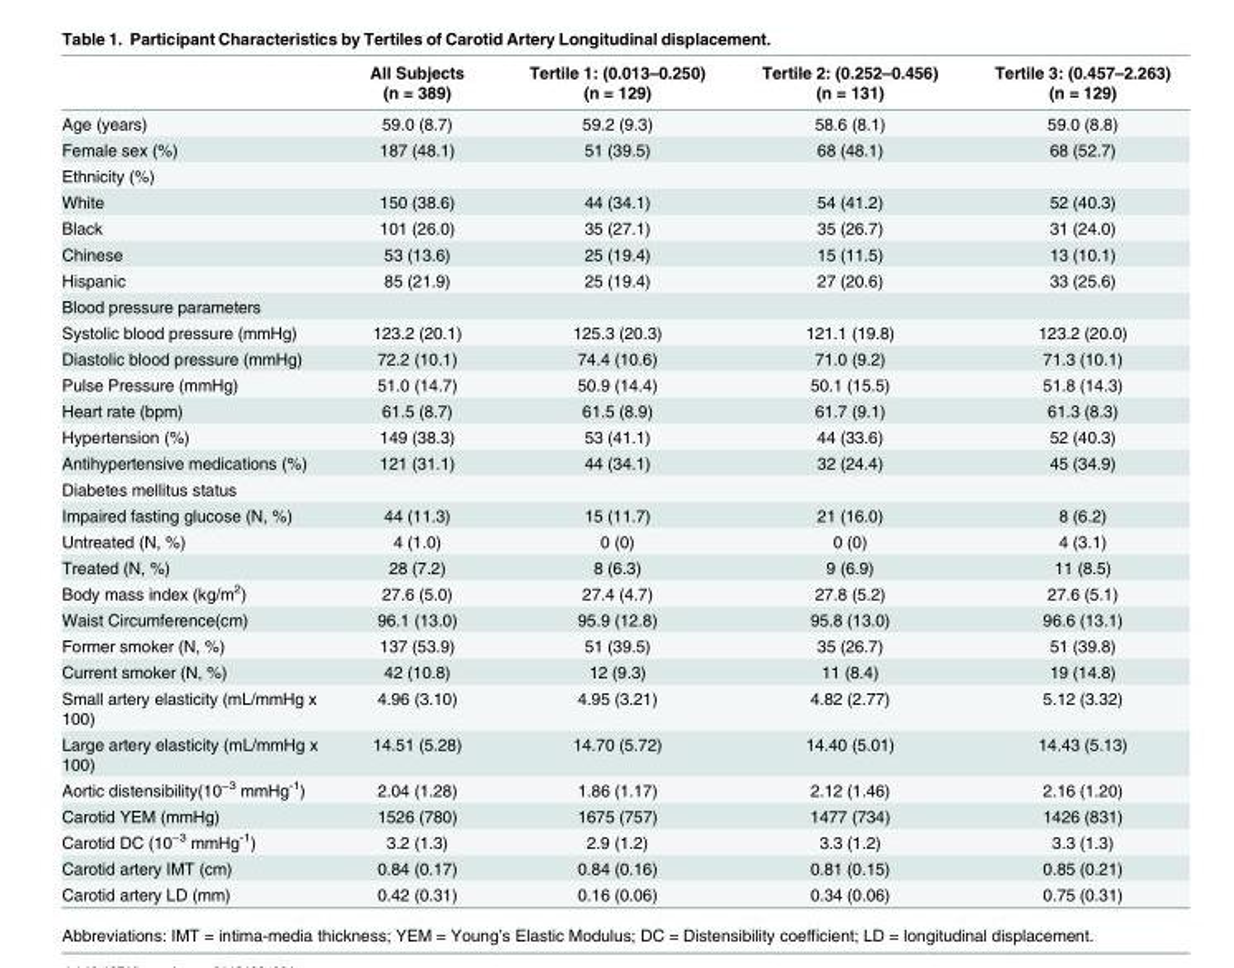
<table><thead><tr><td></td><td>All Subjects (n = 389)</td><td>Tertile 1: (0.013–0.250) (n = 129)</td><td>Tertile 2: (0.252–0.456) (n = 131)</td><td>Tertile 3: (0.457–2.263) (n = 129)</td></tr></thead><tbody><tr><td>Age (years)</td><td>59.0 (8.7)</td><td>59.2 (9.3)</td><td>58.6 (8.1)</td><td>59.0 (8.8)</td></tr><tr><td>Female sex (%)</td><td>187 (48.1)</td><td>51 (39.5)</td><td>68 (48.1)</td><td>68 (52.7)</td></tr><tr><td colspan="5">Ethnicity (%)</td></tr><tr><td>White</td><td>150 (38.6)</td><td>44 (34.1)</td><td>54 (41.2)</td><td>52 (40.3)</td></tr><tr><td>Black</td><td>101 (26.0)</td><td>35 (27.1)</td><td>35 (26.7)</td><td>31 (24.0)</td></tr><tr><td>Chinese</td><td>53 (13.6)</td><td>25 (19.4)</td><td>15 (11.5)</td><td>13 (10.1)</td></tr><tr><td>Hispanic</td><td>85 (21.9)</td><td>25 (19.4)</td><td>27 (20.6)</td><td>33 (25.6)</td></tr><tr><td colspan="5">Blood pressure parameters</td></tr><tr><td>Systolic blood pressure (mmHg)</td><td>123.2 (20.1)</td><td>125.3 (20.3)</td><td>121.1 (19.8)</td><td>123.2 (20.0)</td></tr><tr><td>Diastolic blood pressure (mmHg)</td><td>72.2 (10.1)</td><td>74.4 (10.6)</td><td>71.0 (9.2)</td><td>71.3 (10.1)</td></tr><tr><td>Pulse Pressure (mmHg)</td><td>51.0 (14.7)</td><td>50.9 (14.4)</td><td>50.1 (15.5)</td><td>51.8 (14.3)</td></tr><tr><td>Heart rate (bpm)</td><td>61.5 (8.7)</td><td>61.5 (8.9)</td><td>61.7 (9.1)</td><td>61.3 (8.3)</td></tr><tr><td>Hypertension (%)</td><td>149 (38.3)</td><td>53 (41.1)</td><td>44 (33.6)</td><td>52 (40.3)</td></tr><tr><td>Antihypertensive medications (%)</td><td>121 (31.1)</td><td>44 (34.1)</td><td>32 (24.4)</td><td>45 (34.9)</td></tr><tr><td colspan="5">Diabetes mellitus status</td></tr><tr><td>Impaired fasting glucose (N, %)</td><td>44 (11.3)</td><td>15 (11.7)</td><td>21 (16.0)</td><td>8 (6.2)</td></tr><tr><td>Untreated (N, %)</td><td>4 (1.0)</td><td>0 (0)</td><td>0 (0)</td><td>4 (3.1)</td></tr><tr><td>Treated (N, %)</td><td>28 (7.2)</td><td>8 (6.3)</td><td>9 (6.9)</td><td>11 (8.5)</td></tr><tr><td>Body mass index (kg/m<sup>2</sup>)</td><td>27.6 (5.0)</td><td>27.4 (4.7)</td><td>27.8 (5.2)</td><td>27.6 (5.1)</td></tr><tr><td>Waist Circumference(cm)</td><td>96.1 (13.0)</td><td>95.9 (12.8)</td><td>95.8 (13.0)</td><td>96.6 (13.1)</td></tr><tr><td>Former smoker (N, %)</td><td>137 (53.9)</td><td>51 (39.5)</td><td>35 (26.7)</td><td>51 (39.8)</td></tr><tr><td>Current smoker (N, %)</td><td>42 (10.8)</td><td>12 (9.3)</td><td>11 (8.4)</td><td>19 (14.8)</td></tr><tr><td>Small artery elasticity (mL/mmHg x 100)</td><td>4.96 (3.10)</td><td>4.95 (3.21)</td><td>4.82 (2.77)</td><td>5.12 (3.32)</td></tr><tr><td>Large artery elasticity (mL/mmHg x 100)</td><td>14.51 (5.28)</td><td>14.70 (5.72)</td><td>14.40 (5.01)</td><td>14.43 (5.13)</td></tr><tr><td>Aortic distensibility(10<sup>−3</sup> mmHg<sup>-1</sup>)</td><td>2.04 (1.28)</td><td>1.86 (1.17)</td><td>2.12 (1.46)</td><td>2.16 (1.20)</td></tr><tr><td>Carotid YEM (mmHg)</td><td>1526 (780)</td><td>1675 (757)</td><td>1477 (734)</td><td>1426 (831)</td></tr><tr><td>Carotid DC (10<sup>−3</sup> mmHg<sup>-1</sup>)</td><td>3.2 (1.3)</td><td>2.9 (1.2)</td><td>3.3 (1.2)</td><td>3.3 (1.3)</td></tr><tr><td>Carotid artery IMT (cm)</td><td>0.84 (0.17)</td><td>0.84 (0.16)</td><td>0.81 (0.15)</td><td>0.85 (0.21)</td></tr><tr><td>Carotid artery LD (mm)</td><td>0.42 (0.31)</td><td>0.16 (0.06)</td><td>0.34 (0.06)</td><td>0.75 (0.31)</td></tr></tbody></table>